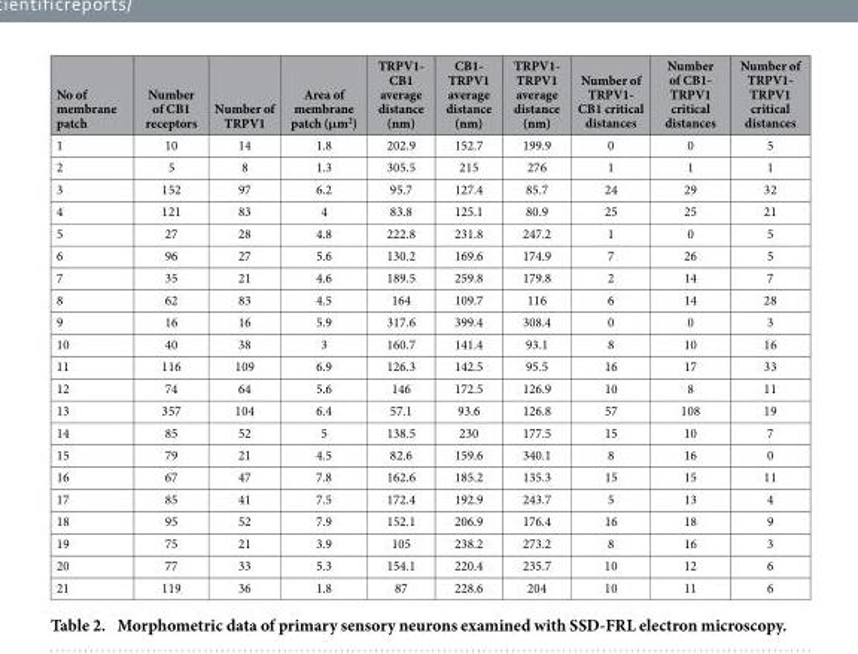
<table><thead><tr><td>No of membrane patch</td><td>Number of CB1 receptors</td><td>Number of TRPV1</td><td>Area of membrane patch (μm<sup>2</sup>)</td><td>TRPV1- CB1 average distance (nm)</td><td>CB1- TRPV1 average distance (nm)</td><td>TRPV1- TRPV1 average distance (nm)</td><td>Number of TRPV1- CB1 critical distances</td><td>Number of CB1- TRPV1 critical distances</td><td>Number of TRPV1- TRPV1 critical distances</td></tr></thead><tbody><tr><td>1</td><td>10</td><td>14</td><td>1.8</td><td>202.9</td><td>152.7</td><td>199.9</td><td>0</td><td>0</td><td>5</td></tr><tr><td>2</td><td>5</td><td>8</td><td>1.3</td><td>305.5</td><td>215</td><td>276</td><td>1</td><td>1</td><td>1</td></tr><tr><td>3</td><td>152</td><td>97</td><td>6.2</td><td>95.7</td><td>127.4</td><td>85.7</td><td>24</td><td>29</td><td>32</td></tr><tr><td>4</td><td>121</td><td>83</td><td>4</td><td>83.8</td><td>125.1</td><td>80.9</td><td>25</td><td>25</td><td>21</td></tr><tr><td>5</td><td>27</td><td>28</td><td>4.8</td><td>222.8</td><td>231.8</td><td>247.2</td><td>1</td><td>0</td><td>5</td></tr><tr><td>6</td><td>96</td><td>27</td><td>5.6</td><td>130.2</td><td>169.6</td><td>174.9</td><td>7</td><td>26</td><td>5</td></tr><tr><td>7</td><td>35</td><td>21</td><td>4.6</td><td>189.5</td><td>259.8</td><td>179.8</td><td>2</td><td>14</td><td>7</td></tr><tr><td>8</td><td>62</td><td>83</td><td>4.5</td><td>164</td><td>109.7</td><td>116</td><td>6</td><td>14</td><td>28</td></tr><tr><td>9</td><td>16</td><td>16</td><td>5.9</td><td>317.6</td><td>399.4</td><td>308.4</td><td>0</td><td>0</td><td>3</td></tr><tr><td>10</td><td>40</td><td>38</td><td>3</td><td>160.7</td><td>141.4</td><td>93.1</td><td>8</td><td>10</td><td>16</td></tr><tr><td>11</td><td>116</td><td>109</td><td>6.9</td><td>126.3</td><td>142.5</td><td>95.5</td><td>16</td><td>17</td><td>33</td></tr><tr><td>12</td><td>74</td><td>64</td><td>5.6</td><td>146</td><td>172.5</td><td>126.9</td><td>10</td><td>8</td><td>11</td></tr><tr><td>13</td><td>357</td><td>104</td><td>6.4</td><td>57.1</td><td>93.6</td><td>126.8</td><td>57</td><td>108</td><td>19</td></tr><tr><td>14</td><td>85</td><td>52</td><td>5</td><td>138.5</td><td>230</td><td>177.5</td><td>15</td><td>10</td><td>7</td></tr><tr><td>15</td><td>79</td><td>21</td><td>4.5</td><td>82.6</td><td>159.6</td><td>340.1</td><td>8</td><td>16</td><td>0</td></tr><tr><td>16</td><td>67</td><td>47</td><td>7.8</td><td>162.6</td><td>185.2</td><td>135.3</td><td>15</td><td>15</td><td>11</td></tr><tr><td>17</td><td>85</td><td>41</td><td>7.5</td><td>172.4</td><td>192.9</td><td>243.7</td><td>5</td><td>13</td><td>4</td></tr><tr><td>18</td><td>95</td><td>52</td><td>7.9</td><td>152.1</td><td>206.9</td><td>176.4</td><td>16</td><td>18</td><td>9</td></tr><tr><td>19</td><td>75</td><td>21</td><td>3.9</td><td>105</td><td>238.2</td><td>273.2</td><td>8</td><td>16</td><td>3</td></tr><tr><td>20</td><td>77</td><td>33</td><td>5.3</td><td>154.1</td><td>220.4</td><td>235.7</td><td>10</td><td>12</td><td>6</td></tr><tr><td>21</td><td>119</td><td>36</td><td>1.8</td><td>87</td><td>228.6</td><td>204</td><td>10</td><td>11</td><td>6</td></tr></tbody></table>